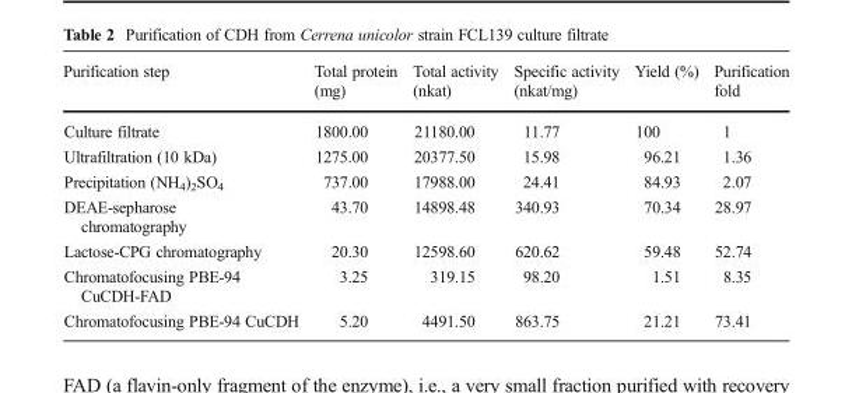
<table><thead><tr><td>Purification step</td><td>Total protein (mg)</td><td>Total activity (nkat)</td><td>Specific activity (nkat/mg)</td><td>Yield (%)</td><td>Purification fold</td></tr></thead><tbody><tr><td>Culture filtrate</td><td>1800.00</td><td>21180.00</td><td>11.77</td><td>100</td><td>1</td></tr><tr><td>Ultrafiltration (10 kDa)</td><td>1275.00</td><td>20377.50</td><td>15.98</td><td>96.21</td><td>1.36</td></tr><tr><td>Precipitation (NH<sub>4</sub>)<sub>2</sub>SO<sub>4</sub></td><td>737.00</td><td>17988.00</td><td>24.41</td><td>84.93</td><td>2.07</td></tr><tr><td>DEAE-sepharose chromatography</td><td>43.70</td><td>14898.48</td><td>340.93</td><td>70.34</td><td>28.97</td></tr><tr><td>Lactose-CPG chromatography</td><td>20.30</td><td>12598.60</td><td>620.62</td><td>59.48</td><td>52.74</td></tr><tr><td>Chromatofocusing PBE-94 CuCDH-FAD</td><td>3.25</td><td>319.15</td><td>98.20</td><td>1.51</td><td>8.35</td></tr><tr><td>Chromatofocusing PBE-94 CuCDH</td><td>5.20</td><td>4491.50</td><td>863.75</td><td>21.21</td><td>73.41</td></tr></tbody></table>